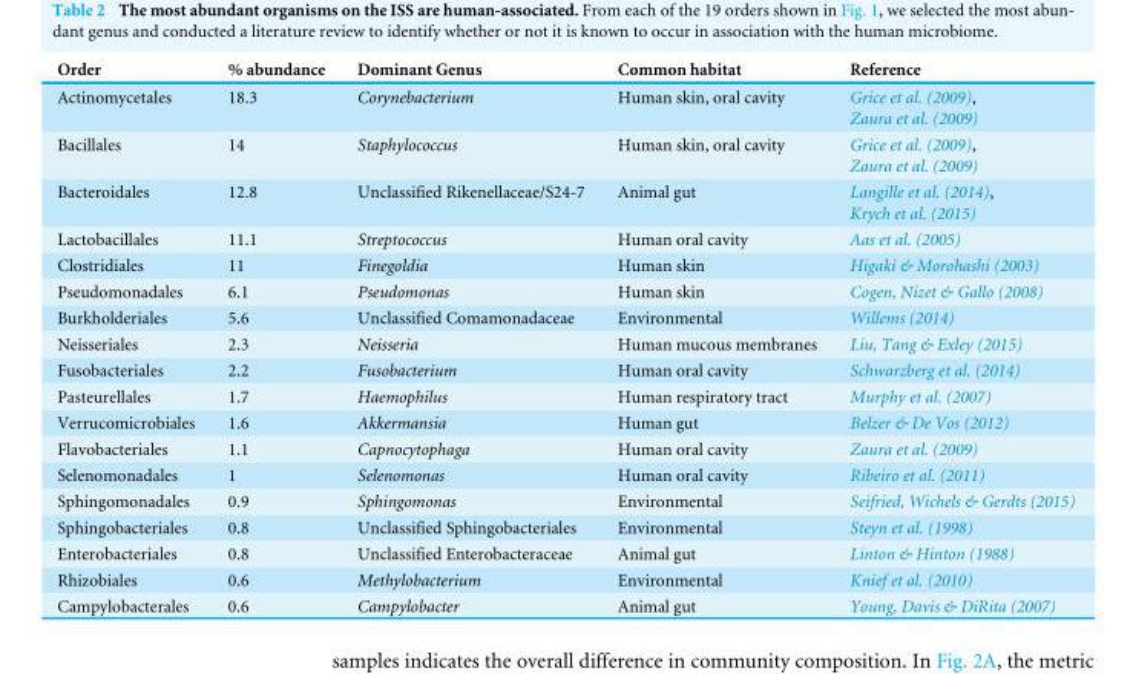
<table><thead><tr><td>Order</td><td>% abundance</td><td>Dominant Genus</td><td>Common habitat</td><td>Reference</td></tr></thead><tbody><tr><td>Actinomycetales</td><td>18.3</td><td>Corynebacterium</td><td>Human skin, oral cavity</td><td>Grice et al. (2009), Zaura et al. (2009)</td></tr><tr><td>Bacillales</td><td>14</td><td>Staphylococcus</td><td>Human skin, oral cavity</td><td>Grice et al. (2009), Zaura et al. (2009)</td></tr><tr><td>Bacteroidales</td><td>12.8</td><td>Unclassified Rikenellaceae/S24-7</td><td>Animal gut</td><td>Langille et al. (2014), Krych et al. (2015)</td></tr><tr><td>Lactobacillales</td><td>11.1</td><td>Streptococcus</td><td>Human oral cavity</td><td>Aas et al. (2005)</td></tr><tr><td>Clostridiales</td><td>11</td><td>Finegoldia</td><td>Human skin</td><td>Higaki &amp; Morohashi (2003)</td></tr><tr><td>Pseudomonadales</td><td>6.1</td><td>Pseudomonas</td><td>Human skin</td><td>Cogen, Nizet &amp; Gallo (2008)</td></tr><tr><td>Burkholderiales</td><td>5.6</td><td>Unclassified Comamonadaceae</td><td>Environmental</td><td>Willems (2014)</td></tr><tr><td>Neisseriales</td><td>2.3</td><td>Neisseria</td><td>Human mucous membranes</td><td>Liu, Tang &amp; Exley (2015)</td></tr><tr><td>Fusobacteriales</td><td>2.2</td><td>Fusobacterium</td><td>Human oral cavity</td><td>Schwarzberg et al. (2014)</td></tr><tr><td>Pasteurellales</td><td>1.7</td><td>Haemophilus</td><td>Human respiratory tract</td><td>Murphy et al. (2007)</td></tr><tr><td>Verrucomicrobiales</td><td>1.6</td><td>Akkermansia</td><td>Human gut</td><td>Belzer &amp; De Vos (2012)</td></tr><tr><td>Flavobacteriales</td><td>1.1</td><td>Capnocytophaga</td><td>Human oral cavity</td><td>Zaura et al. (2009)</td></tr><tr><td>Selenomonadales</td><td>1</td><td>Selenomonas</td><td>Human oral cavity</td><td>Ribeiro et al. (2011)</td></tr><tr><td>Sphingomonadales</td><td>0.9</td><td>Sphingomonas</td><td>Environmental</td><td>Seifried, Wichels &amp; Gerdts (2015)</td></tr><tr><td>Sphingobacteriales</td><td>0.8</td><td>Unclassified Sphingobacteriales</td><td>Environmental</td><td>Steyn et al. (1998)</td></tr><tr><td>Enterobacteriales</td><td>0.8</td><td>Unclassified Enterobacteraceae</td><td>Animal gut</td><td>Linton &amp; Hinton (1988)</td></tr><tr><td>Rhizobiales</td><td>0.6</td><td>Methylobacterium</td><td>Environmental</td><td>Knief et al. (2010)</td></tr><tr><td>Campylobacterales</td><td>0.6</td><td>Campylobacter</td><td>Animal gut</td><td>Young, Davis &amp; DiRita (2007)</td></tr></tbody></table>